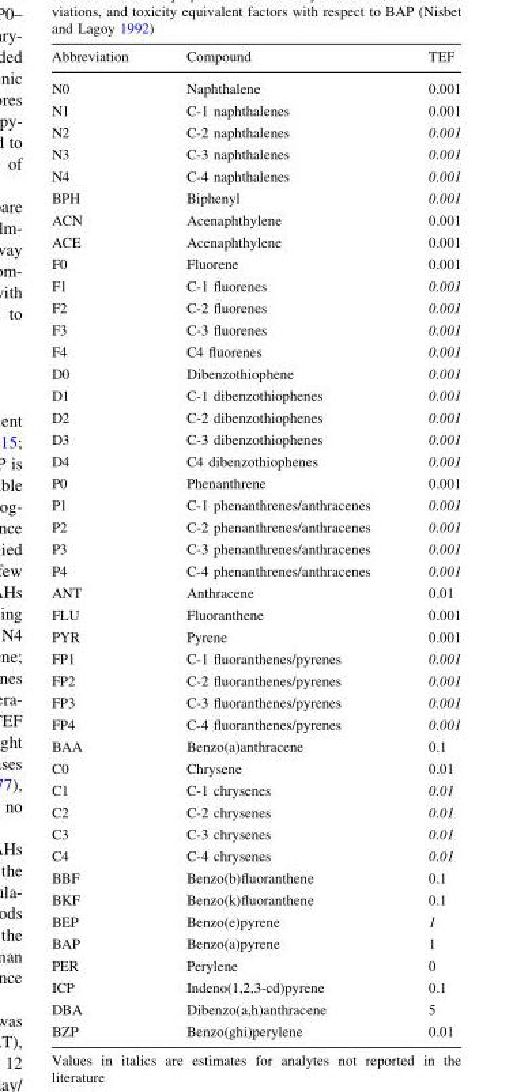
<table><thead><tr><td>Abbreviation</td><td>Compound</td><td>TEF</td></tr></thead><tbody><tr><td>N0</td><td>Naphthalene</td><td>0.001</td></tr><tr><td>N1</td><td>C-1 naphthalenes</td><td>0.001</td></tr><tr><td>N2</td><td>C-2 naphthalenes</td><td>0.001</td></tr><tr><td>N3</td><td>C-3 naphthalenes</td><td>0.001</td></tr><tr><td>N4</td><td>C-4 naphthalenes</td><td>0.001</td></tr><tr><td>BPH</td><td>Biphenyl</td><td>0.001</td></tr><tr><td>ACN</td><td>Acenaphthylene</td><td>0.001</td></tr><tr><td>ACE</td><td>Acenaphthylene</td><td>0.001</td></tr><tr><td>F0</td><td>Fluorene</td><td>0.001</td></tr><tr><td>F1</td><td>C-1 fluorenes</td><td>0.001</td></tr><tr><td>F2</td><td>C-2 fluorenes</td><td>0.001</td></tr><tr><td>F3</td><td>C-3 fluorenes</td><td>0.001</td></tr><tr><td>F4</td><td>C4 fluorenes</td><td>0.001</td></tr><tr><td>D0</td><td>Dibenzothiophene</td><td>0.001</td></tr><tr><td>D1</td><td>C-1 dibenzothiophenes</td><td>0.001</td></tr><tr><td>D2</td><td>C-2 dibenzothiophenes</td><td>0.001</td></tr><tr><td>D3</td><td>C-3 dibenzothiophenes</td><td>0.001</td></tr><tr><td>D4</td><td>C4 dibenzothiophenes</td><td>0.001</td></tr><tr><td>P0</td><td>Phenanthrene</td><td>0.001</td></tr><tr><td>P1</td><td>C-1 phenanthrenes/anthracenes</td><td>0.001</td></tr><tr><td>P2</td><td>C-2 phenanthrenes/anthracenes</td><td>0.001</td></tr><tr><td>P3</td><td>C-3 phenanthrenes/anthracenes</td><td>0.001</td></tr><tr><td>P4</td><td>C-4 phenanthrenes/anthracenes</td><td>0.001</td></tr><tr><td>ANT</td><td>Anthracene</td><td>0.01</td></tr><tr><td>FLU</td><td>Fluoranthene</td><td>0.001</td></tr><tr><td>PYR</td><td>Pyrene</td><td>0.001</td></tr><tr><td>FP1</td><td>C-1 fluoranthenes/pyrenes</td><td>0.001</td></tr><tr><td>FP2</td><td>C-2 fluoranthenes/pyrenes</td><td>0.001</td></tr><tr><td>FP3</td><td>C-3 fluoranthenes/pyrenes</td><td>0.001</td></tr><tr><td>FP4</td><td>C-4 fluoranthenes/pyrenes</td><td>0.001</td></tr><tr><td>BAA</td><td>Benzo(a)anthracene</td><td>0.1</td></tr><tr><td>C0</td><td>Chrysene</td><td>0.01</td></tr><tr><td>C1</td><td>C-1 chrysenes</td><td>0.01</td></tr><tr><td>C2</td><td>C-2 chrysenes</td><td>0.01</td></tr><tr><td>C3</td><td>C-3 chrysenes</td><td>0.01</td></tr><tr><td>C4</td><td>C-4 chrysenes</td><td>0.01</td></tr><tr><td>BBF</td><td>Benzo(b)fluoranthene</td><td>0.1</td></tr><tr><td>BKF</td><td>Benzo(k)fluoranthene</td><td>0.1</td></tr><tr><td>BEP</td><td>Benzo(e)pyrene</td><td>1</td></tr><tr><td>BAP</td><td>Benzo(a)pyrene</td><td>1</td></tr><tr><td>PER</td><td>Perylene</td><td>0</td></tr><tr><td>ICP</td><td>Indeno(1,2,3-cd)pyrene</td><td>0.1</td></tr><tr><td>DBA</td><td>Dibenzo(a,h)anthracene</td><td>5</td></tr><tr><td>BZP</td><td>Benzo(ghi)perylene</td><td>0.01</td></tr></tbody></table>